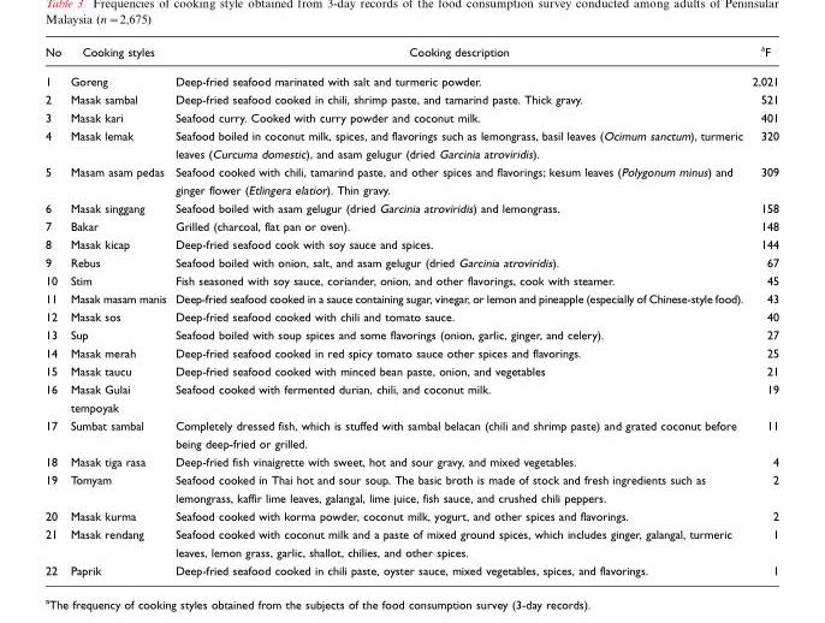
<table><thead><tr><td>No</td><td>Cooking styles</td><td>Cooking description</td><td>aF</td></tr></thead><tbody><tr><td>1</td><td>Goreng</td><td>Deep-fried seafood marinated with salt and turmeric powder.</td><td>2,021</td></tr><tr><td>2</td><td>Masak sambal</td><td>Deep-fried seafood cooked in chili, shrimp paste, and tamarind paste. Thick gravy.</td><td>521</td></tr><tr><td>3</td><td>Masak kari</td><td>Seafood curry. Cooked with curry powder and coconut milk.</td><td>401</td></tr><tr><td>4</td><td>Masak lemak</td><td>Seafood boiled in coconut milk, spices, and flavorings such as lemongrass, basil leaves (Ocimum sanctum), turmeric leaves (Curcuma domestic), and asam gelugur (dried Garcinia atroviridis).</td><td>320</td></tr><tr><td>5</td><td>Masam asam pedas</td><td>Seafood cooked with chili, tamarind paste, and other spices and flavorings; kesum leaves (Polygonum minus) and ginger flower (Etlingera elatior). Thin gravy.</td><td>309</td></tr><tr><td>6</td><td>Masak singgang</td><td>Seafood boiled with asam gelugur (dried Garcinia atroviridis) and lemongrass.</td><td>158</td></tr><tr><td>7</td><td>Bakar</td><td>Grilled (charcoal, flat pan or oven).</td><td>148</td></tr><tr><td>8</td><td>Masak kicap</td><td>Deep-fried seafood cook with soy sauce and spices.</td><td>144</td></tr><tr><td>9</td><td>Rebus</td><td>Seafood boiled with onion, salt, and asam gelugur (dried Garcinia atroviridis).</td><td>67</td></tr><tr><td>10</td><td>Stim</td><td>Fish seasoned with soy sauce, coriander, onion, and other flavorings, cook with steamer.</td><td>45</td></tr><tr><td>11</td><td>Masak masam manis</td><td>Deep-fried seafood cooked in a sauce containing sugar, vinegar, or lemon and pineapple (especially of Chinese-style food).</td><td>43</td></tr><tr><td>12</td><td>Masak sos</td><td>Deep-fried seafood cooked with chili and tomato sauce.</td><td>40</td></tr><tr><td>13</td><td>Sup</td><td>Seafood boiled with soup spices and some flavorings (onion, garlic, ginger, and celery).</td><td>27</td></tr><tr><td>14</td><td>Masak merah</td><td>Deep-fried seafood cooked in red spicy tomato sauce other spices and flavorings.</td><td>25</td></tr><tr><td>15</td><td>Masak taucu</td><td>Deep-fried seafood cooked with minced bean paste, onion, and vegetables</td><td>21</td></tr><tr><td>16</td><td>Masak Gulai tempoyak</td><td>Seafood cooked with fermented durian, chili, and coconut milk.</td><td>19</td></tr><tr><td>17</td><td>Sumbat sambal</td><td>Completely dressed fish, which is stuffed with sambal belacan (chili and shrimp paste) and grated coconut before being deep-fried or grilled.</td><td>11</td></tr><tr><td>18</td><td>Masak tiga rasa</td><td>Deep-fried fish vinaigrette with sweet, hot and sour gravy, and mixed vegetables.</td><td>4</td></tr><tr><td>19</td><td>Tomyam</td><td>Seafood cooked in Thai hot and sour soup. The basic broth is made of stock and fresh ingredients such as lemongrass, kaffir lime leaves, galangal, lime juice, fish sauce, and crushed chili peppers.</td><td>2</td></tr><tr><td>20</td><td>Masak kurma</td><td>Seafood cooked with korma powder, coconut milk, yogurt, and other spices and flavorings.</td><td>2</td></tr><tr><td>21</td><td>Masak rendang</td><td>Seafood cooked with coconut milk and a paste of mixed ground spices, which includes ginger, galangal, turmeric leaves, lemon grass, garlic, shallot, chilies, and other spices.</td><td>1</td></tr><tr><td>22</td><td>Paprik</td><td>Deep-fried seafood cooked in chili paste, oyster sauce, mixed vegetables, spices, and flavorings.</td><td>1</td></tr></tbody></table>